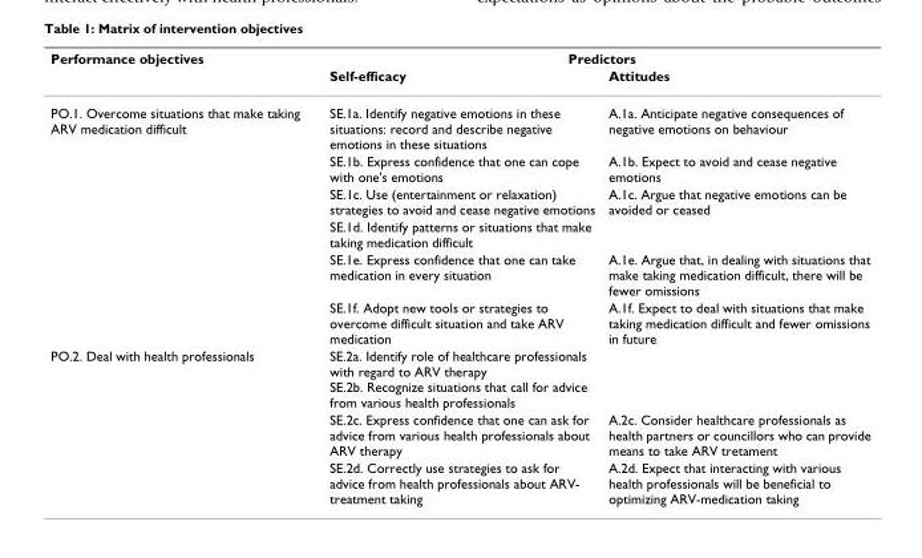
<table><thead><tr><td rowspan="2">Performance objectives</td><td colspan="2">Predictors</td></tr><tr><td>Self-efficacy</td><td>Attitudes</td></tr></thead><tbody><tr><td rowspan="6">PO.1. Overcome situations that make taking ARV medication difficult</td><td>SE.1a. Identify negative emotions in these situations: record and describe negative emotions in these situations</td><td>A.1a. Anticipate negative consequences of negative emotions on behaviour</td></tr><tr><td>SE.1b. Express confidence that one can cope with one&#x27;s emotions</td><td>A.1b. Expect to avoid and cease negative emotions</td></tr><tr><td>SE.1c. Use (entertainment or relaxation) strategies to avoid and cease negative emotions</td><td>A.1c. Argue that negative emotions can be avoided or ceased</td></tr><tr><td>SE.1d. Identify patterns or situations that make taking medication difficult</td><td></td></tr><tr><td>SE.1e. Express confidence that one can take medication in every situation</td><td>A.1e. Argue that, in dealing with situations that make taking medication difficult, there will be fewer omissions</td></tr><tr><td>SE.1f. Adopt new tools or strategies to overcome difficult situation and take ARV medication</td><td>A.1f. Expect to deal with situations that make taking medication difficult and fewer omissions in future</td></tr><tr><td rowspan="3">PO.2. Deal with health professionals</td><td>SE.2a. Identify role of healthcare professionals with regard to ARV therapy SE.2b. Recognize situations that call for advice from various health professionals</td><td></td></tr><tr><td>SE.2c. Express confidence that one can ask for advice from various health professionals about ARV therapy</td><td>A.2c. Consider healthcare professionals as health partners or councillors who can provide means to take ARV tretament</td></tr><tr><td>SE.2d. Correctly use strategies to ask for advice from health professionals about ARV- treatment taking</td><td>A.2d. Expect that interacting with various health professionals will be beneficial to optimizing ARV-medication taking</td></tr></tbody></table>